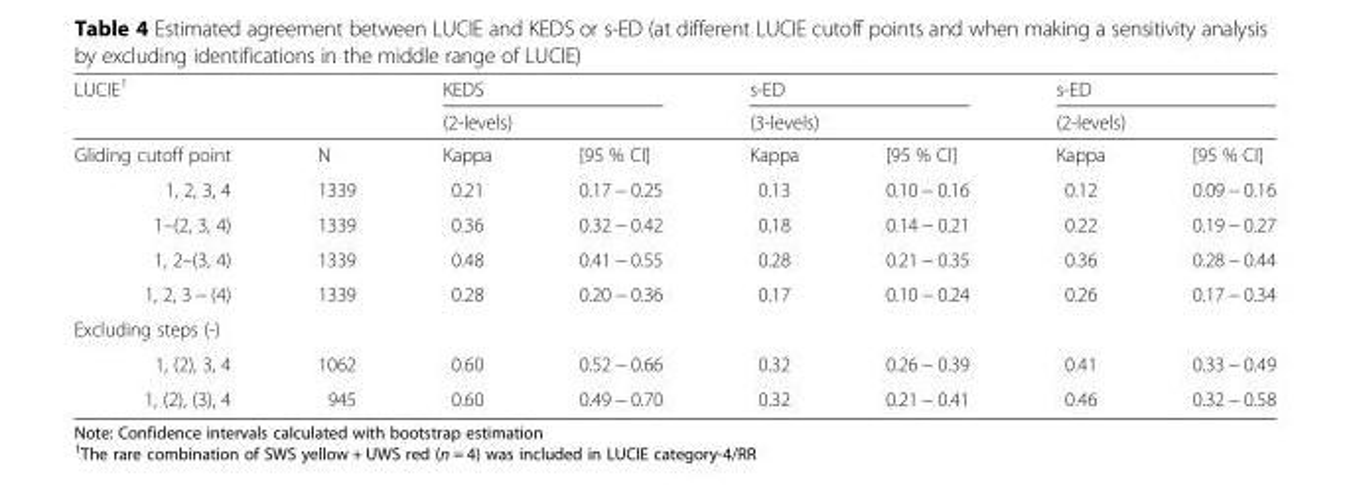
<table><thead><tr><td rowspan="2" colspan="2">LUCIE<sup>1</sup></td><td rowspan="2" colspan="2">KEDS (2-levels)</td><td rowspan="2" colspan="2">s-ED (3-levels)</td><td rowspan="2" colspan="2">s-ED (2-levels)</td></tr><tr></tr><tr><td>Gliding cutoff point</td><td>N</td><td>Kappa</td><td>[95 % CI]</td><td>Kappa</td><td>[95 % CI]</td><td>Kappa</td><td>[95 % CI]</td></tr></thead><tbody><tr><td>1, 2, 3, 4</td><td>1339</td><td>0.21</td><td>0.17 − 0.25</td><td>0.13</td><td>0.10 − 0.16</td><td>0.12</td><td>0.09 − 0.16</td></tr><tr><td>1–(2, 3, 4)</td><td>1339</td><td>0.36</td><td>0.32 − 0.42</td><td>0.18</td><td>0.14 − 0.21</td><td>0.22</td><td>0.19 − 0.27</td></tr><tr><td>1, 2–(3, 4)</td><td>1339</td><td>0.48</td><td>0.41 − 0.55</td><td>0.28</td><td>0.21 − 0.35</td><td>0.36</td><td>0.28 − 0.44</td></tr><tr><td>1, 2, 3 − (4)</td><td>1339</td><td>0.28</td><td>0.20 − 0.36</td><td>0.17</td><td>0.10 − 0.24</td><td>0.26</td><td>0.17 − 0.34</td></tr><tr><td colspan="8">Excluding steps (-)</td></tr><tr><td>1, (2), 3, 4</td><td>1062</td><td>0.60</td><td>0.52 − 0.66</td><td>0.32</td><td>0.26 − 0.39</td><td>0.41</td><td>0.33 − 0.49</td></tr><tr><td>1, (2), (3), 4</td><td>945</td><td>0.60</td><td>0.49 − 0.70</td><td>0.32</td><td>0.21 − 0.41</td><td>0.46</td><td>0.32 − 0.58</td></tr></tbody></table>